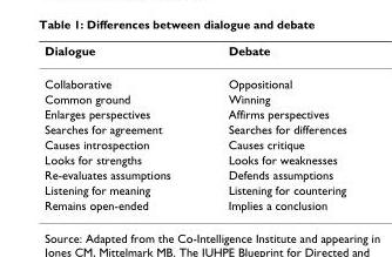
<table><thead><tr><td>Dialogue</td><td>Debate</td></tr></thead><tbody><tr><td>Collaborative</td><td>Oppositional</td></tr><tr><td>Common ground</td><td>Winning</td></tr><tr><td>Enlarges perspectives</td><td>Affirms perspectives</td></tr><tr><td>Searches for agreement</td><td>Searches for differences</td></tr><tr><td>Causes introspection</td><td>Causes critique</td></tr><tr><td>Looks for strengths</td><td>Looks for weaknesses</td></tr><tr><td>Re-evaluates assumptions</td><td>Defends assumptions</td></tr><tr><td>Listening for meaning</td><td>Listening for countering</td></tr><tr><td>Remains open-ended</td><td>Implies a conclusion</td></tr></tbody></table>